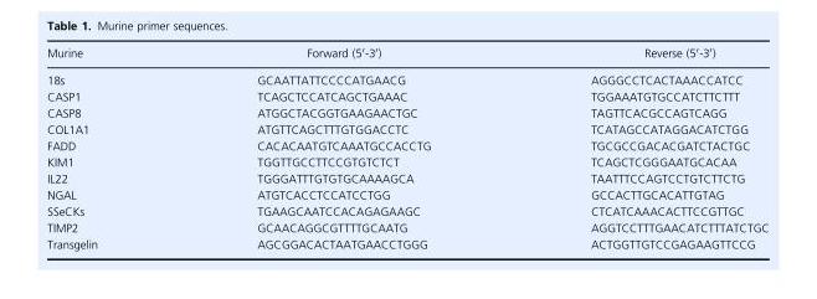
<table><thead><tr><td>Murine</td><td>Forward (5′-3′)</td><td>Reverse (5′-3′)</td></tr></thead><tbody><tr><td>18s</td><td>GCAATTATTCCCCATGAACG</td><td>AGGGCCTCACTAAACCATCC</td></tr><tr><td>CASP1</td><td>TCAGCTCCATCAGCTGAAAC</td><td>TGGAAATGTGCCATCTTCTTT</td></tr><tr><td>CASP8</td><td>ATGGCTACGGTGAAGAACTGC</td><td>TAGTTCACGCCAGTCAGG</td></tr><tr><td>COL1A1</td><td>ATGTTCAGCTTTGTGGACCTC</td><td>TCATAGCCATAGGACATCTGG</td></tr><tr><td>FADD</td><td>CACACAATGTCAAATGCCACCTG</td><td>TGCGCCGACACGATCTACTGC</td></tr><tr><td>KIM1</td><td>TGGTTGCCTTCCGTGTCTCT</td><td>TCAGCTCGGGAATGCACAA</td></tr><tr><td>IL22</td><td>TGGGATTTGTGTGCAAAAGCA</td><td>TAATTTCCAGTCCTGTCTTCTG</td></tr><tr><td>NGAL</td><td>ATGTCACCTCCATCCTGG</td><td>GCCACTTGCACATTGTAG</td></tr><tr><td>SSeCKs</td><td>TGAAGCAATCCACAGAGAAGC</td><td>CTCATCAAACACTTCCGTTGC</td></tr><tr><td>TIMP2</td><td>GCAACAGGCGTTTTGCAATG</td><td>AGGTCCTTTGAACATCTTTATCTGC</td></tr><tr><td>Transgelin</td><td>AGCGGACACTAATGAACCTGGG</td><td>ACTGGTTGTCCGAGAAGTTCCG</td></tr></tbody></table>